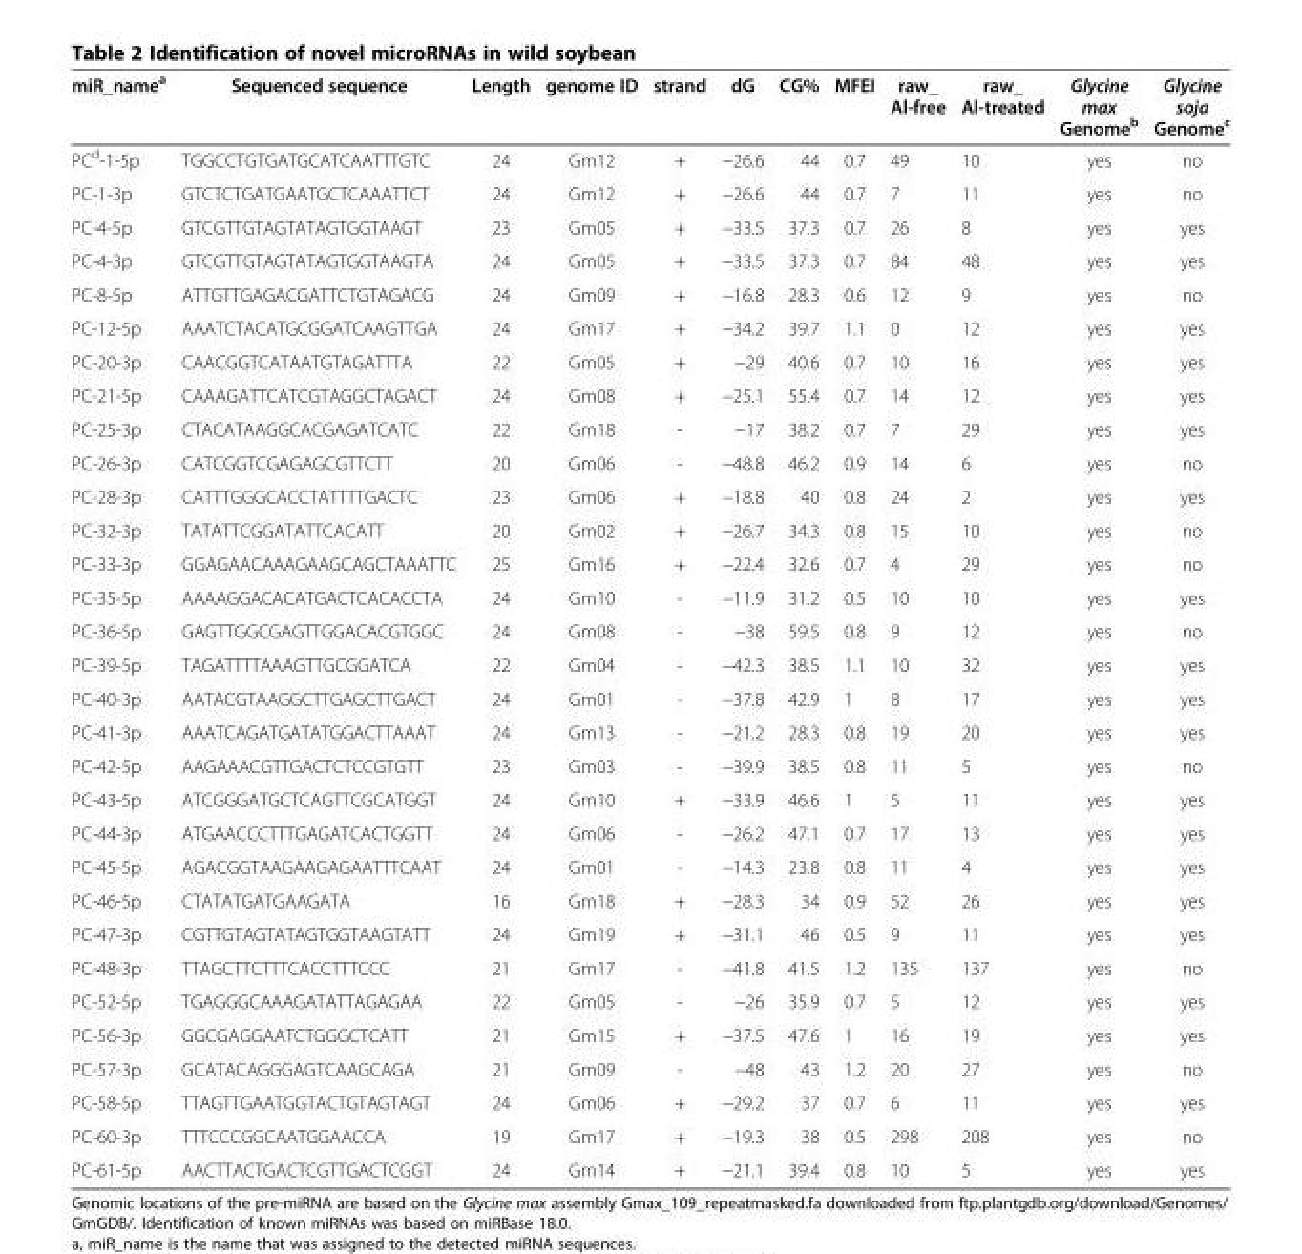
<table><thead><tr><td>miR_name<sup>a</sup></td><td>Sequenced sequence</td><td>Length</td><td>genome ID</td><td>strand</td><td>dG</td><td>CG%</td><td>MFEI</td><td>raw_ Al-free</td><td>raw_ Al-treated</td><td>Glycine max Genome<sup>b</sup></td><td>Glycine soja Genome<sup>c</sup></td></tr></thead><tbody><tr><td>PC<sup>d</sup>-1-5p</td><td>TGGCCTGTGATGCATCAATTTGTC</td><td>24</td><td>Gm12</td><td>+</td><td>−26.6</td><td>44</td><td>0.7</td><td>49</td><td>10</td><td>yes</td><td>no</td></tr><tr><td>PC-1-3p</td><td>GTCTCTGATGAATGCTCAAATTCT</td><td>24</td><td>Gm12</td><td>+</td><td>−26.6</td><td>44</td><td>0.7</td><td>7</td><td>11</td><td>yes</td><td>no</td></tr><tr><td>PC-4-5p</td><td>GTCGTTGTAGTATAGTGGTAAGT</td><td>23</td><td>Gm05</td><td>+</td><td>−33.5</td><td>37.3</td><td>0.7</td><td>26</td><td>8</td><td>yes</td><td>yes</td></tr><tr><td>PC-4-3p</td><td>GTCGTTGTAGTATAGTGGTAAGTA</td><td>24</td><td>Gm05</td><td>+</td><td>−33.5</td><td>37.3</td><td>0.7</td><td>84</td><td>48</td><td>yes</td><td>yes</td></tr><tr><td>PC-8-5p</td><td>ATTGTTGAGACGATTCTGTAGACG</td><td>24</td><td>Gm09</td><td>+</td><td>−16.8</td><td>28.3</td><td>0.6</td><td>12</td><td>9</td><td>yes</td><td>no</td></tr><tr><td>PC-12-5p</td><td>AAATCTACATGCGGATCAAGTTGA</td><td>24</td><td>Gm17</td><td>+</td><td>−34.2</td><td>39.7</td><td>1.1</td><td>0</td><td>12</td><td>yes</td><td>yes</td></tr><tr><td>PC-20-3p</td><td>CAACGGTCATAATGTAGATTTA</td><td>22</td><td>Gm05</td><td>+</td><td>−29</td><td>40.6</td><td>0.7</td><td>10</td><td>16</td><td>yes</td><td>yes</td></tr><tr><td>PC-21-5p</td><td>CAAAGATTCATCGTAGGCTAGACT</td><td>24</td><td>Gm08</td><td>+</td><td>−25.1</td><td>55.4</td><td>0.7</td><td>14</td><td>12</td><td>yes</td><td>yes</td></tr><tr><td>PC-25-3p</td><td>CTACATAAGGCACGAGATCATC</td><td>22</td><td>Gm18</td><td>-</td><td>−17</td><td>38.2</td><td>0.7</td><td>7</td><td>29</td><td>yes</td><td>yes</td></tr><tr><td>PC-26-3p</td><td>CATCGGTCGAGAGCGTTCTT</td><td>20</td><td>Gm06</td><td>-</td><td>−48.8</td><td>46.2</td><td>0.9</td><td>14</td><td>6</td><td>yes</td><td>no</td></tr><tr><td>PC-28-3p</td><td>CATTTGGGCACCTATTTTGACTC</td><td>23</td><td>Gm06</td><td>+</td><td>−18.8</td><td>40</td><td>0.8</td><td>24</td><td>2</td><td>yes</td><td>yes</td></tr><tr><td>PC-32-3p</td><td>TATATTCGGATATTCACATT</td><td>20</td><td>Gm02</td><td>+</td><td>−26.7</td><td>34.3</td><td>0.8</td><td>15</td><td>10</td><td>yes</td><td>no</td></tr><tr><td>PC-33-3p</td><td>GGAGAACAAAGAAGCAGCTAAATTC</td><td>25</td><td>Gm16</td><td>+</td><td>−22.4</td><td>32.6</td><td>0.7</td><td>4</td><td>29</td><td>yes</td><td>no</td></tr><tr><td>PC-35-5p</td><td>AAAAGGACACATGACTCACACCTA</td><td>24</td><td>Gm10</td><td>-</td><td>−11.9</td><td>31.2</td><td>0.5</td><td>10</td><td>10</td><td>yes</td><td>yes</td></tr><tr><td>PC-36-5p</td><td>GAGTTGGCGAGTTGGACACGTGGC</td><td>24</td><td>Gm08</td><td>-</td><td>−38</td><td>59.5</td><td>0.8</td><td>9</td><td>12</td><td>yes</td><td>no</td></tr><tr><td>PC-39-5p</td><td>TAGATTTTAAAGTTGCGGATCA</td><td>22</td><td>Gm04</td><td>-</td><td>−42.3</td><td>38.5</td><td>1.1</td><td>10</td><td>32</td><td>yes</td><td>yes</td></tr><tr><td>PC-40-3p</td><td>AATACGTAAGGCTTGAGCTTGACT</td><td>24</td><td>Gm01</td><td>-</td><td>−37.8</td><td>42.9</td><td>1</td><td>8</td><td>17</td><td>yes</td><td>yes</td></tr><tr><td>PC-41-3p</td><td>AAATCAGATGATATGGACTTAAAT</td><td>24</td><td>Gm13</td><td>-</td><td>−21.2</td><td>28.3</td><td>0.8</td><td>19</td><td>20</td><td>yes</td><td>yes</td></tr><tr><td>PC-42-5p</td><td>AAGAAACGTTGACTCTCCGTGTT</td><td>23</td><td>Gm03</td><td>-</td><td>−39.9</td><td>38.5</td><td>0.8</td><td>11</td><td>5</td><td>yes</td><td>no</td></tr><tr><td>PC-43-5p</td><td>ATCGGGATGCTCAGTTCGCATGGT</td><td>24</td><td>Gm10</td><td>+</td><td>−33.9</td><td>46.6</td><td>1</td><td>5</td><td>11</td><td>yes</td><td>yes</td></tr><tr><td>PC-44-3p</td><td>ATGAACCCTTTGAGATCACTGGTT</td><td>24</td><td>Gm06</td><td>-</td><td>−26.2</td><td>47.1</td><td>0.7</td><td>17</td><td>13</td><td>yes</td><td>yes</td></tr><tr><td>PC-45-5p</td><td>AGACGGTAAGAAGAGAATTTCAAT</td><td>24</td><td>Gm01</td><td>-</td><td>−14.3</td><td>23.8</td><td>0.8</td><td>11</td><td>4</td><td>yes</td><td>yes</td></tr><tr><td>PC-46-5p</td><td>CTATATGATGAAGATA</td><td>16</td><td>Gm18</td><td>+</td><td>−28.3</td><td>34</td><td>0.9</td><td>52</td><td>26</td><td>yes</td><td>yes</td></tr><tr><td>PC-47-3p</td><td>CGTTGTAGTATAGTGGTAAGTATT</td><td>24</td><td>Gm19</td><td>+</td><td>−31.1</td><td>46</td><td>0.5</td><td>9</td><td>11</td><td>yes</td><td>yes</td></tr><tr><td>PC-48-3p</td><td>TTAGCTTCTTTCACCTTTCCC</td><td>21</td><td>Gm17</td><td>-</td><td>−41.8</td><td>41.5</td><td>1.2</td><td>135</td><td>137</td><td>yes</td><td>no</td></tr><tr><td>PC-52-5p</td><td>TGAGGGCAAAGATATTAGAGAA</td><td>22</td><td>Gm05</td><td>-</td><td>−26</td><td>35.9</td><td>0.7</td><td>5</td><td>12</td><td>yes</td><td>yes</td></tr><tr><td>PC-56-3p</td><td>GGCGAGGAATCTGGGCTCATT</td><td>21</td><td>Gm15</td><td>+</td><td>−37.5</td><td>47.6</td><td>1</td><td>16</td><td>19</td><td>yes</td><td>yes</td></tr><tr><td>PC-57-3p</td><td>GCATACAGGGAGTCAAGCAGA</td><td>21</td><td>Gm09</td><td>-</td><td>−48</td><td>43</td><td>1.2</td><td>20</td><td>27</td><td>yes</td><td>no</td></tr><tr><td>PC-58-5p</td><td>TTAGTTGAATGGTACTGTAGTAGT</td><td>24</td><td>Gm06</td><td>+</td><td>−29.2</td><td>37</td><td>0.7</td><td>6</td><td>11</td><td>yes</td><td>yes</td></tr><tr><td>PC-60-3p</td><td>TTTCCCGGCAATGGAACCA</td><td>19</td><td>Gm17</td><td>+</td><td>−19.3</td><td>38</td><td>0.5</td><td>298</td><td>208</td><td>yes</td><td>no</td></tr><tr><td>PC-61-5p</td><td>AACTTACTGACTCGTTGACTCGGT</td><td>24</td><td>Gm14</td><td>+</td><td>−21.1</td><td>39.4</td><td>0.8</td><td>10</td><td>5</td><td>yes</td><td>yes</td></tr></tbody></table>